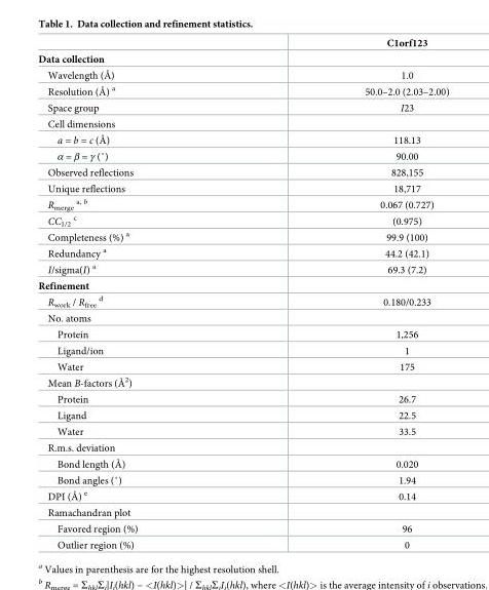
<table><thead><tr><td></td><td>C1orf123</td></tr></thead><tbody><tr><td colspan="2">Data collection</td></tr><tr><td>Wavelength (Å)</td><td>1.0</td></tr><tr><td>Resolution (Å) <sup>a</sup></td><td>50.0–2.0 (2.03–2.00)</td></tr><tr><td>Space group</td><td>I23</td></tr><tr><td colspan="2">Cell dimensions</td></tr><tr><td>a = b = c (Å)</td><td>118.13</td></tr><tr><td>α = β = γ (˚)</td><td>90.00</td></tr><tr><td>Observed reflections</td><td>828,155</td></tr><tr><td>Unique reflections</td><td>18,717</td></tr><tr><td>R<sub>merge</sub> <sup>a, b</sup></td><td>0.067 (0.727)</td></tr><tr><td>CC<sub>1/2</sub> <sup>c</sup></td><td>(0.975)</td></tr><tr><td>Completeness (%) <sup>a</sup></td><td>99.9 (100)</td></tr><tr><td>Redundancy <sup>a</sup></td><td>44.2 (42.1)</td></tr><tr><td>I/sigma(I) <sup>a</sup></td><td>69.3 (7.2)</td></tr><tr><td colspan="2">Refinement</td></tr><tr><td>R<sub>work</sub> / R<sub>free</sub> <sup>d</sup></td><td>0.180/0.233</td></tr><tr><td colspan="2">No. atoms</td></tr><tr><td>Protein</td><td>1,256</td></tr><tr><td>Ligand/ion</td><td>1</td></tr><tr><td>Water</td><td>175</td></tr><tr><td colspan="2">Mean B-factors (Å<sup>2</sup>)</td></tr><tr><td>Protein</td><td>26.7</td></tr><tr><td>Ligand</td><td>22.5</td></tr><tr><td>Water</td><td>33.5</td></tr><tr><td colspan="2">R.m.s. deviation</td></tr><tr><td>Bond length (Å)</td><td>0.020</td></tr><tr><td>Bond angles (˚)</td><td>1.94</td></tr><tr><td>DPI (Å) <sup>e</sup></td><td>0.14</td></tr><tr><td colspan="2">Ramachandran plot</td></tr><tr><td>Favored region (%)</td><td>96</td></tr><tr><td>Outlier region (%)</td><td>0</td></tr></tbody></table>